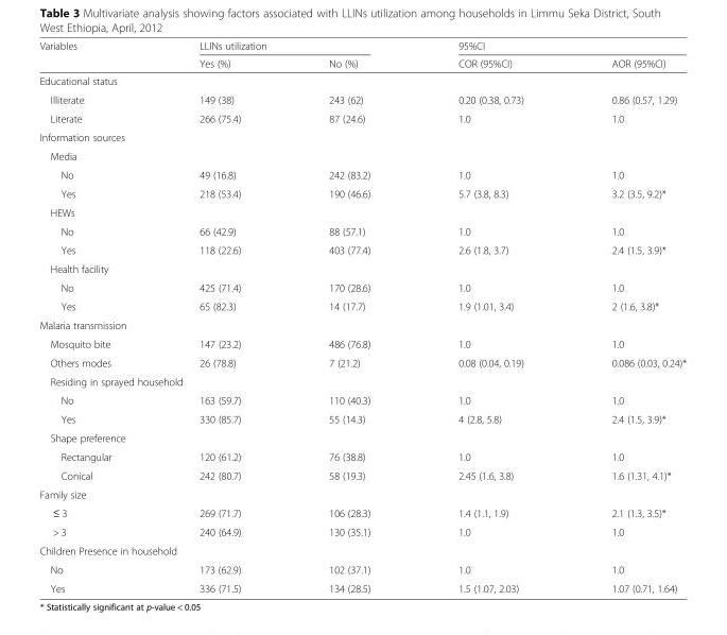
<table><thead><tr><td rowspan="2">Variables</td><td colspan="2">LLINs utilization</td><td colspan="2">95%CI</td></tr><tr><td>Yes (%)</td><td>No (%)</td><td>COR (95%CI)</td><td>AOR (95%CI)</td></tr></thead><tbody><tr><td colspan="5">Educational status</td></tr><tr><td>Illiterate</td><td>149 (38)</td><td>243 (62)</td><td>0.20 (0.38, 0.73)</td><td>0.86 (0.57, 1.29)</td></tr><tr><td>Literate</td><td>266 (75.4)</td><td>87 (24.6)</td><td>1.0</td><td>1.0</td></tr><tr><td colspan="5">Information sources</td></tr><tr><td colspan="5">Media</td></tr><tr><td>No</td><td>49 (16.8)</td><td>242 (83.2)</td><td>1.0</td><td>1.0</td></tr><tr><td>Yes</td><td>218 (53.4)</td><td>190 (46.6)</td><td>5.7 (3.8, 8.3)</td><td>3.2 (3.5, 9.2)*</td></tr><tr><td colspan="5">HEWs</td></tr><tr><td>No</td><td>66 (42.9)</td><td>88 (57.1)</td><td>1.0</td><td>1.0</td></tr><tr><td>Yes</td><td>118 (22.6)</td><td>403 (77.4)</td><td>2.6 (1.8, 3.7)</td><td>2.4 (1.5, 3.9)*</td></tr><tr><td colspan="5">Health facility</td></tr><tr><td>No</td><td>425 (71.4)</td><td>170 (28.6)</td><td>1.0</td><td>1.0</td></tr><tr><td>Yes</td><td>65 (82.3)</td><td>14 (17.7)</td><td>1.9 (1.01, 3.4)</td><td>2 (1.6, 3.8)*</td></tr><tr><td colspan="5">Malaria transmission</td></tr><tr><td>Mosquito bite</td><td>147 (23.2)</td><td>486 (76.8)</td><td>1.0</td><td>1.0</td></tr><tr><td>Others modes</td><td>26 (78.8)</td><td>7 (21.2)</td><td>0.08 (0.04, 0.19)</td><td>0.086 (0.03, 0.24)*</td></tr><tr><td colspan="5">Residing in sprayed household</td></tr><tr><td>No</td><td>163 (59.7)</td><td>110 (40.3)</td><td>1.0</td><td>1.0</td></tr><tr><td>Yes</td><td>330 (85.7)</td><td>55 (14.3)</td><td>4 (2.8, 5.8)</td><td>2.4 (1.5, 3.9)*</td></tr><tr><td colspan="5">Shape preference</td></tr><tr><td>Rectangular</td><td>120 (61.2)</td><td>76 (38.8)</td><td>1.0</td><td>1.0</td></tr><tr><td>Conical</td><td>242 (80.7)</td><td>58 (19.3)</td><td>2.45 (1.6, 3.8)</td><td>1.6 (1.31, 4.1)*</td></tr><tr><td colspan="5">Family size</td></tr><tr><td>≤ 3</td><td>269 (71.7)</td><td>106 (28.3)</td><td>1.4 (1.1, 1.9)</td><td>2.1 (1.3, 3.5)*</td></tr><tr><td>&gt; 3</td><td>240 (64.9)</td><td>130 (35.1)</td><td>1.0</td><td>1.0</td></tr><tr><td colspan="5">Children Presence in household</td></tr><tr><td>No</td><td>173 (62.9)</td><td>102 (37.1)</td><td>1.0</td><td>1.0</td></tr><tr><td>Yes</td><td>336 (71.5)</td><td>134 (28.5)</td><td>1.5 (1.07, 2.03)</td><td>1.07 (0.71, 1.64)</td></tr></tbody></table>